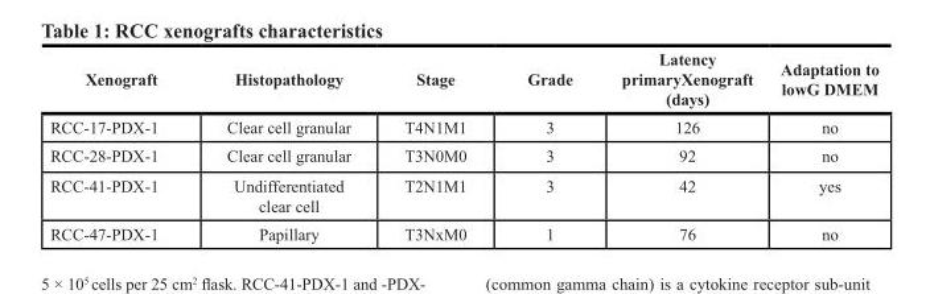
<table><thead><tr><td>Xenograft</td><td>Histopathology</td><td>Stage</td><td>Grade</td><td>Latency primaryXenograft (days)</td><td>Adaptation to lowG DMEM</td></tr></thead><tbody><tr><td>RCC-17-PDX-1</td><td>Clear cell granular</td><td>T4N1M1</td><td>3</td><td>126</td><td>no</td></tr><tr><td>RCC-28-PDX-1</td><td>Clear cell granular</td><td>T3N0M0</td><td>3</td><td>92</td><td>no</td></tr><tr><td>RCC-41-PDX-1</td><td>Undifferentiated clear cell</td><td>T2N1M1</td><td>3</td><td>42</td><td>yes</td></tr><tr><td>RCC-47-PDX-1</td><td>Papillary</td><td>T3NxM0</td><td>1</td><td>76</td><td>no</td></tr></tbody></table>